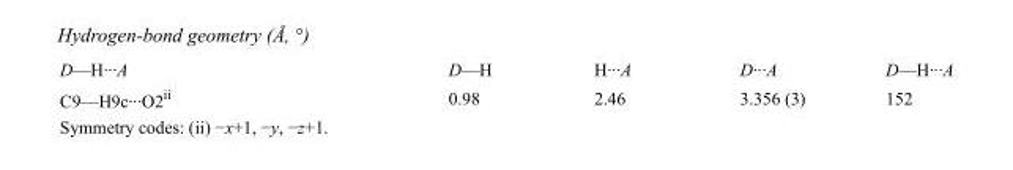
<table><tbody><tr><td>D—H···A</td><td>D—H</td><td>H···A</td><td>D···A</td><td>D—H···A</td></tr><tr><td>C9—H9c···O2<sup>ii</sup></td><td>0.98</td><td>2.46</td><td>3.356 (3)</td><td>152</td></tr></tbody></table>